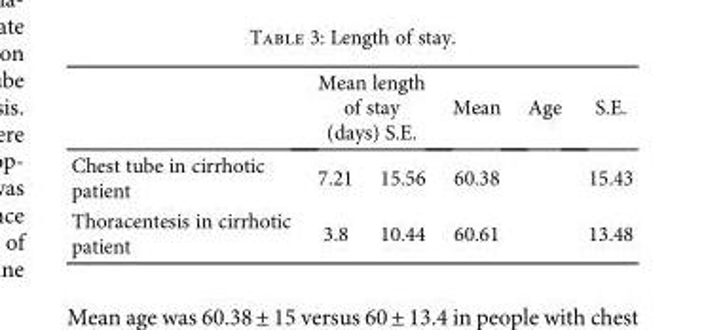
<table><thead><tr><td rowspan="2">Chest tube in cirrhotic patient</td><td colspan="2">Mean length of stay (days) S.E.</td><td rowspan="2">Mean 60.38</td><td rowspan="2">Age</td><td rowspan="2">S.E. 15.43</td></tr><tr><td>7.21</td><td>15.56</td></tr></thead><tbody><tr><td>Thoracentesis in cirrhotic patient</td><td>3.8</td><td>10.44</td><td>60.61</td><td></td><td>13.48</td></tr></tbody></table>